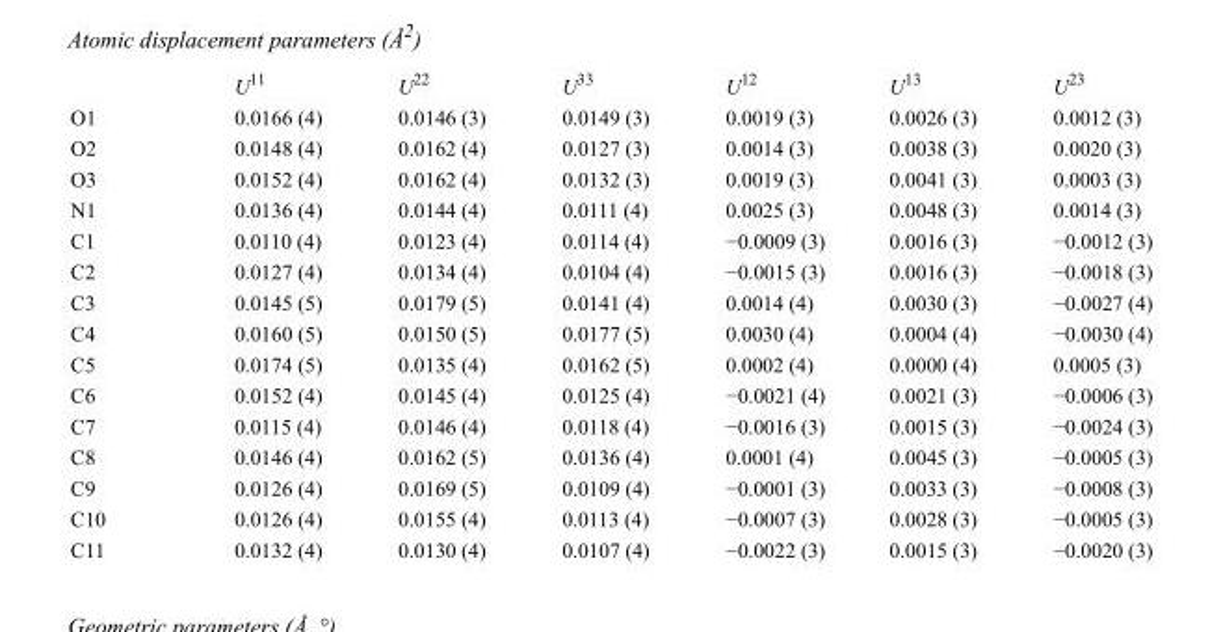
<table><thead><tr><td></td><td>U<sup>11</sup></td><td>U<sup>22</sup></td><td>U<sup>33</sup></td><td>U<sup>12</sup></td><td>U<sup>13</sup></td><td>U<sup>23</sup></td></tr></thead><tbody><tr><td>O1</td><td>0.0166 (4)</td><td>0.0146 (3)</td><td>0.0149 (3)</td><td>0.0019 (3)</td><td>0.0026 (3)</td><td>0.0012 (3)</td></tr><tr><td>O2</td><td>0.0148 (4)</td><td>0.0162 (4)</td><td>0.0127 (3)</td><td>0.0014 (3)</td><td>0.0038 (3)</td><td>0.0020 (3)</td></tr><tr><td>O3</td><td>0.0152 (4)</td><td>0.0162 (4)</td><td>0.0132 (3)</td><td>0.0019 (3)</td><td>0.0041 (3)</td><td>0.0003 (3)</td></tr><tr><td>N1</td><td>0.0136 (4)</td><td>0.0144 (4)</td><td>0.0111 (4)</td><td>0.0025 (3)</td><td>0.0048 (3)</td><td>0.0014 (3)</td></tr><tr><td>C1</td><td>0.0110 (4)</td><td>0.0123 (4)</td><td>0.0114 (4)</td><td>−0.0009 (3)</td><td>0.0016 (3)</td><td>−0.0012 (3)</td></tr><tr><td>C2</td><td>0.0127 (4)</td><td>0.0134 (4)</td><td>0.0104 (4)</td><td>−0.0015 (3)</td><td>0.0016 (3)</td><td>−0.0018 (3)</td></tr><tr><td>C3</td><td>0.0145 (5)</td><td>0.0179 (5)</td><td>0.0141 (4)</td><td>0.0014 (4)</td><td>0.0030 (3)</td><td>−0.0027 (4)</td></tr><tr><td>C4</td><td>0.0160 (5)</td><td>0.0150 (5)</td><td>0.0177 (5)</td><td>0.0030 (4)</td><td>0.0004 (4)</td><td>−0.0030 (4)</td></tr><tr><td>C5</td><td>0.0174 (5)</td><td>0.0135 (4)</td><td>0.0162 (5)</td><td>0.0002 (4)</td><td>0.0000 (4)</td><td>0.0005 (3)</td></tr><tr><td>C6</td><td>0.0152 (4)</td><td>0.0145 (4)</td><td>0.0125 (4)</td><td>−0.0021 (4)</td><td>0.0021 (3)</td><td>−0.0006 (3)</td></tr><tr><td>C7</td><td>0.0115 (4)</td><td>0.0146 (4)</td><td>0.0118 (4)</td><td>−0.0016 (3)</td><td>0.0015 (3)</td><td>−0.0024 (3)</td></tr><tr><td>C8</td><td>0.0146 (4)</td><td>0.0162 (5)</td><td>0.0136 (4)</td><td>0.0001 (4)</td><td>0.0045 (3)</td><td>−0.0005 (3)</td></tr><tr><td>C9</td><td>0.0126 (4)</td><td>0.0169 (5)</td><td>0.0109 (4)</td><td>−0.0001 (3)</td><td>0.0033 (3)</td><td>−0.0008 (3)</td></tr><tr><td>C10</td><td>0.0126 (4)</td><td>0.0155 (4)</td><td>0.0113 (4)</td><td>−0.0007 (3)</td><td>0.0028 (3)</td><td>−0.0005 (3)</td></tr><tr><td>C11</td><td>0.0132 (4)</td><td>0.0130 (4)</td><td>0.0107 (4)</td><td>−0.0022 (3)</td><td>0.0015 (3)</td><td>−0.0020 (3)</td></tr></tbody></table>